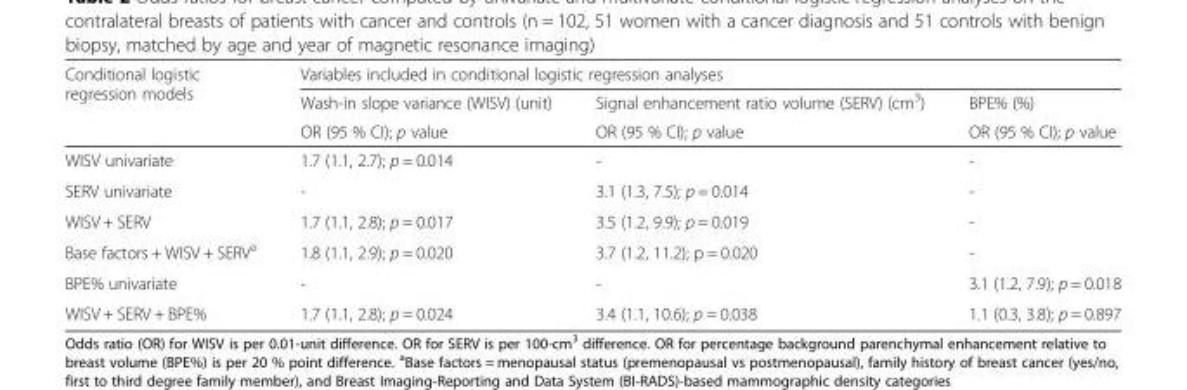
<table><thead><tr><td rowspan="3">Conditional logistic regression models</td><td colspan="3">Variables included in conditional logistic regression analyses</td></tr><tr><td rowspan="2">Wash-in slope variance (WISV) (unit) OR (95 % CI); p value</td><td rowspan="2">Signal enhancement ratio volume (SERV) (cm<sup>3</sup>) OR (95 % CI); p value</td><td rowspan="2">BPE% (%) OR (95 % CI); p value</td></tr><tr></tr></thead><tbody><tr><td>WISV univariate</td><td>1.7 (1.1, 2.7); p = 0.014</td><td>-</td><td>-</td></tr><tr><td>SERV univariate</td><td>-</td><td>3.1 (1.3, 7.5); p = 0.014</td><td>-</td></tr><tr><td>WISV + SERV</td><td>1.7 (1.1, 2.8); p = 0.017</td><td>3.5 (1.2, 9.9); p = 0.019</td><td>-</td></tr><tr><td>Base factors + WISV + SERV<sup>a</sup></td><td>1.8 (1.1, 2.9); p = 0.020</td><td>3.7 (1.2, 11.2); p = 0.020</td><td>-</td></tr><tr><td>BPE% univariate</td><td>-</td><td>-</td><td>3.1 (1.2, 7.9); p = 0.018</td></tr><tr><td>WISV + SERV + BPE%</td><td>1.7 (1.1, 2.8); p = 0.024</td><td>3.4 (1.1, 10.6); p = 0.038</td><td>1.1 (0.3, 3.8); p = 0.897</td></tr></tbody></table>